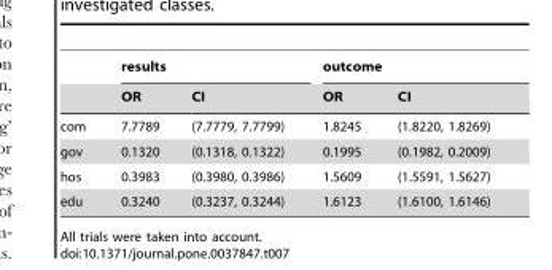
<table><thead><tr><td rowspan="2"></td><td colspan="2">results</td><td colspan="2">outcome</td></tr><tr><td>OR</td><td>CI</td><td>OR</td><td>CI</td></tr></thead><tbody><tr><td>com</td><td>7.7789</td><td>(7.7779, 7.7799)</td><td>1.8245</td><td>(1.8220, 1.8269)</td></tr><tr><td>gov</td><td>0.1320</td><td>(0.1318, 0.1322)</td><td>0.1995</td><td>(0.1982, 0.2009)</td></tr><tr><td>hos</td><td>0.3983</td><td>(0.3980, 0.3986)</td><td>1.5609</td><td>(1.5591, 1.5627)</td></tr><tr><td>edu</td><td>0.3240</td><td>(0.3237, 0.3244)</td><td>1.6123</td><td>(1.6100, 1.6146)</td></tr></tbody></table>